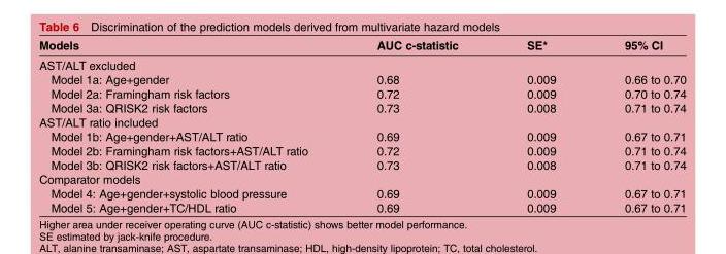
<table><thead><tr><td>Models</td><td>AUC c-statistic</td><td>SE*</td><td>95% CI</td></tr></thead><tbody><tr><td colspan="4">AST/ALT excluded</td></tr><tr><td>Model 1a: Age+gender</td><td>0.68</td><td>0.009</td><td>0.66 to 0.70</td></tr><tr><td>Model 2a: Framingham risk factors</td><td>0.72</td><td>0.009</td><td>0.70 to 0.74</td></tr><tr><td>Model 3a: QRISK2 risk factors</td><td>0.73</td><td>0.008</td><td>0.71 to 0.74</td></tr><tr><td colspan="4">AST/ALT ratio included</td></tr><tr><td>Model 1b: Age+gender+AST/ALT ratio</td><td>0.69</td><td>0.009</td><td>0.67 to 0.71</td></tr><tr><td>Model 2b: Framingham risk factors+AST/ALT ratio</td><td>0.72</td><td>0.009</td><td>0.71 to 0.74</td></tr><tr><td>Model 3b: QRISK2 risk factors+AST/ALT ratio</td><td>0.73</td><td>0.008</td><td>0.71 to 0.74</td></tr><tr><td colspan="4">Comparator models</td></tr><tr><td>Model 4: Age+gender+systolic blood pressure</td><td>0.69</td><td>0.009</td><td>0.67 to 0.71</td></tr><tr><td>Model 5: Age+gender+TC/HDL ratio</td><td>0.69</td><td>0.009</td><td>0.67 to 0.71</td></tr></tbody></table>